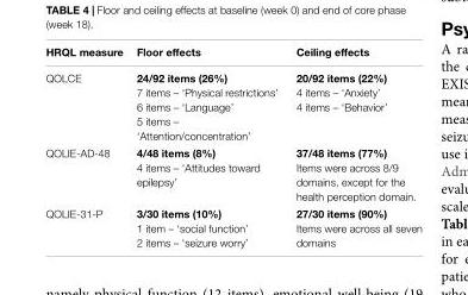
<table><thead><tr><td>HRQL measure</td><td>Floor effects</td><td>Ceiling effects</td></tr></thead><tbody><tr><td>QOLCE</td><td>24/92 items (26%) 7 items – ‘Physical restrictions’ 6 items – ‘Language’ 5 items – ‘Attention/concentration’</td><td>20/92 items (22%) 4 items – ‘Anxiety’ 4 items – ‘Behavior’</td></tr><tr><td>QOLIE-AD-48</td><td>4/48 items (8%) 4 items – ‘Attitudes toward epilepsy’</td><td>37/48 items (77%) Items were across 8/9 domains, except for the health perception domain.</td></tr><tr><td>QOLIE-31-P</td><td>3/30 items (10%) 1 item – ‘social function’ 2 items – ‘seizure worry’</td><td>27/30 items (90%) Items were across all seven domains</td></tr></tbody></table>